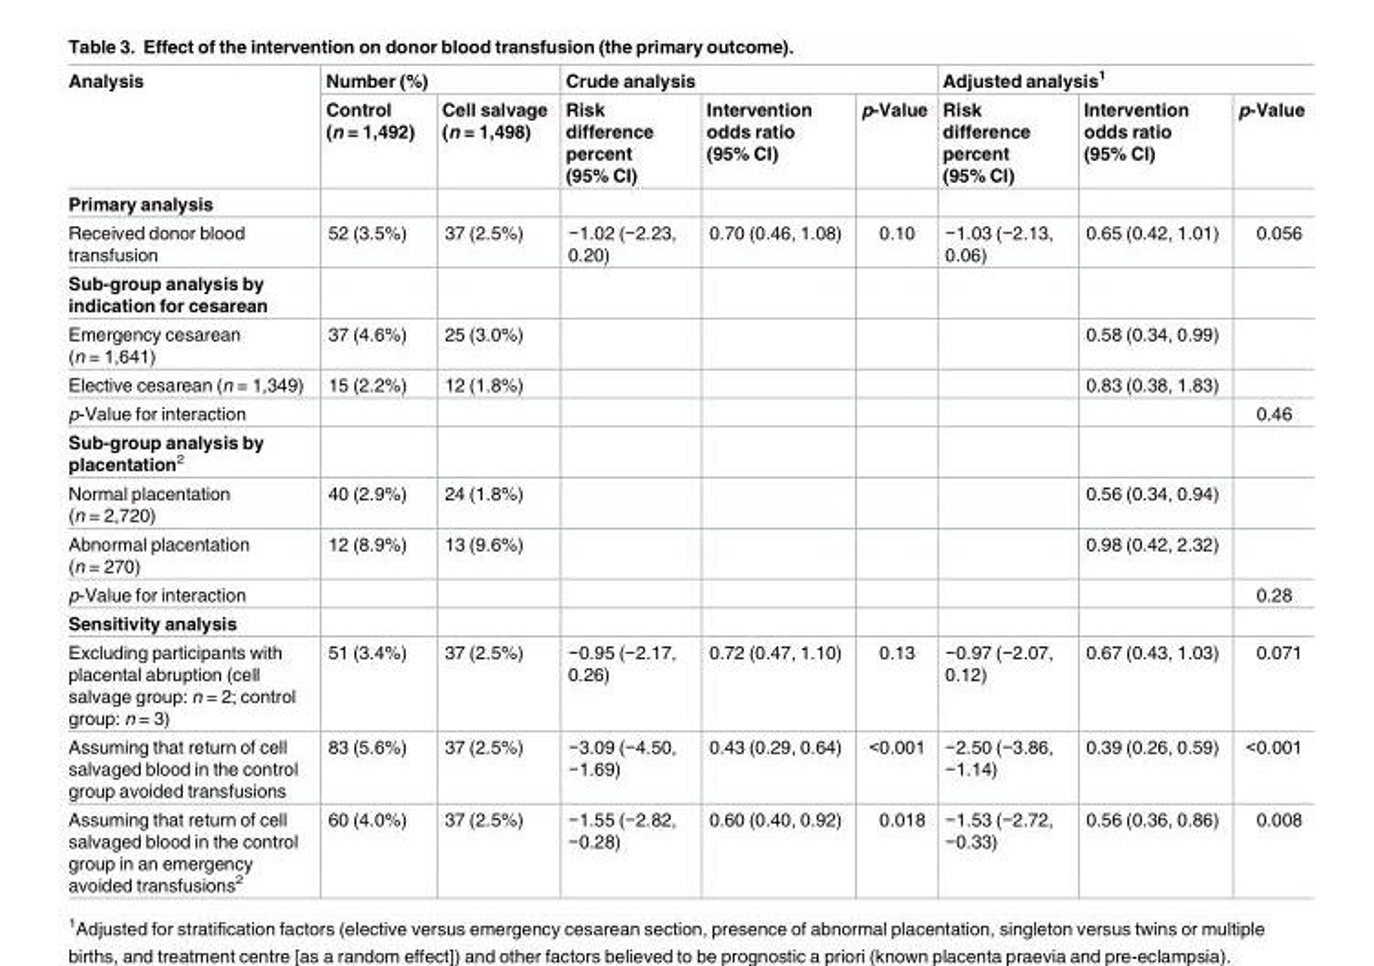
<table><thead><tr><td rowspan="2">Analysis</td><td colspan="2">Number (%)</td><td colspan="3">Crude analysis</td><td colspan="3">Adjusted analysis<sup>1</sup></td></tr><tr><td>Control (n = 1,492)</td><td>Cell salvage (n = 1,498)</td><td>Risk difference percent (95% CI)</td><td>Intervention odds ratio (95% CI)</td><td>p-Value</td><td>Risk difference percent (95% CI)</td><td>Intervention odds ratio (95% CI)</td><td>p-Value</td></tr></thead><tbody><tr><td colspan="9">Primary analysis</td></tr><tr><td>Received donor blood transfusion</td><td>52 (3.5%)</td><td>37 (2.5%)</td><td>−1.02 (−2.23, 0.20)</td><td>0.70 (0.46, 1.08)</td><td>0.10</td><td>−1.03 (−2.13, 0.06)</td><td>0.65 (0.42, 1.01)</td><td>0.056</td></tr><tr><td colspan="9">Sub-group analysis by indication for cesarean</td></tr><tr><td>Emergency cesarean (n = 1,641)</td><td>37 (4.6%)</td><td>25 (3.0%)</td><td></td><td></td><td></td><td></td><td>0.58 (0.34, 0.99)</td><td></td></tr><tr><td>Elective cesarean (n = 1,349)</td><td>15 (2.2%)</td><td>12 (1.8%)</td><td></td><td></td><td></td><td></td><td>0.83 (0.38, 1.83)</td><td></td></tr><tr><td>p-Value for interaction</td><td></td><td></td><td></td><td></td><td></td><td></td><td></td><td>0.46</td></tr><tr><td colspan="9">Sub-group analysis by placentation<sup>2</sup></td></tr><tr><td>Normal placentation (n = 2,720)</td><td>40 (2.9%)</td><td>24 (1.8%)</td><td></td><td></td><td></td><td></td><td>0.56 (0.34, 0.94)</td><td></td></tr><tr><td>Abnormal placentation (n = 270)</td><td>12 (8.9%)</td><td>13 (9.6%)</td><td></td><td></td><td></td><td></td><td>0.98 (0.42, 2.32)</td><td></td></tr><tr><td>p-Value for interaction</td><td></td><td></td><td></td><td></td><td></td><td></td><td></td><td>0.28</td></tr><tr><td colspan="9">Sensitivity analysis</td></tr><tr><td>Excluding participants with placental abruption (cell salvage group: n = 2; control group: n = 3)</td><td>51 (3.4%)</td><td>37 (2.5%)</td><td>−0.95 (−2.17, 0.26)</td><td>0.72 (0.47, 1.10)</td><td>0.13</td><td>−0.97 (−2.07, 0.12)</td><td>0.67 (0.43, 1.03)</td><td>0.071</td></tr><tr><td>Assuming that return of cell salvaged blood in the control group avoided transfusions</td><td>83 (5.6%)</td><td>37 (2.5%)</td><td>−3.09 (−4.50, −1.69)</td><td>0.43 (0.29, 0.64)</td><td>&lt;0.001</td><td>−2.50 (−3.86, −1.14)</td><td>0.39 (0.26, 0.59)</td><td>&lt;0.001</td></tr><tr><td>Assuming that return of cell salvaged blood in the control group in an emergency avoided transfusions<sup>2</sup></td><td>60 (4.0%)</td><td>37 (2.5%)</td><td>−1.55 (−2.82, −0.28)</td><td>0.60 (0.40, 0.92)</td><td>0.018</td><td>−1.53 (−2.72, −0.33)</td><td>0.56 (0.36, 0.86)</td><td>0.008</td></tr></tbody></table>